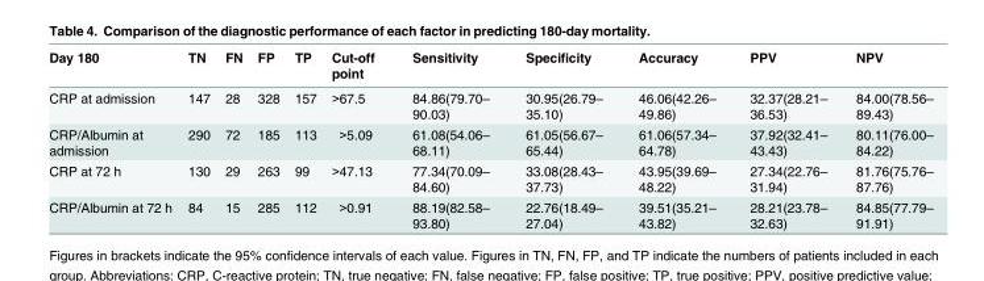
<table><thead><tr><td>Day 180</td><td>TN</td><td>FN</td><td>FP</td><td>TP</td><td>Cut-off point</td><td>Sensitivity</td><td>Specificity</td><td>Accuracy</td><td>PPV</td><td>NPV</td></tr></thead><tbody><tr><td>CRP at admission</td><td>147</td><td>28</td><td>328</td><td>157</td><td>&gt;67.5</td><td>84.86(79.70– 90.03)</td><td>30.95(26.79– 35.10)</td><td>46.06(42.26– 49.86)</td><td>32.37(28.21– 36.53)</td><td>84.00(78.56– 89.43)</td></tr><tr><td>CRP/Albumin at admission</td><td>290</td><td>72</td><td>185</td><td>113</td><td>&gt;5.09</td><td>61.08(54.06– 68.11)</td><td>61.05(56.67– 65.44)</td><td>61.06(57.34– 64.78)</td><td>37.92(32.41– 43.43)</td><td>80.11(76.00– 84.22)</td></tr><tr><td>CRP at 72 h</td><td>130</td><td>29</td><td>263</td><td>99</td><td>&gt;47.13</td><td>77.34(70.09– 84.60)</td><td>33.08(28.43– 37.73)</td><td>43.95(39.69– 48.22)</td><td>27.34(22.76– 31.94)</td><td>81.76(75.76– 87.76)</td></tr><tr><td>CRP/Albumin at 72 h</td><td>84</td><td>15</td><td>285</td><td>112</td><td>&gt;0.91</td><td>88.19(82.58– 93.80)</td><td>22.76(18.49– 27.04)</td><td>39.51(35.21– 43.82)</td><td>28.21(23.78– 32.63)</td><td>84.85(77.79– 91.91)</td></tr></tbody></table>